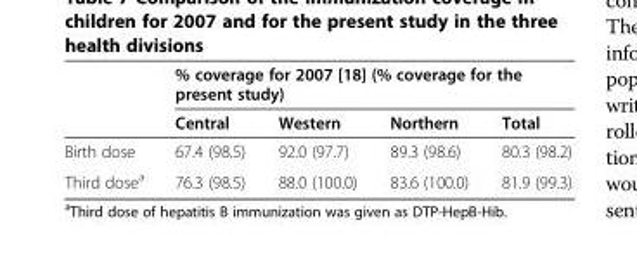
<table><thead><tr><td rowspan="2"></td><td colspan="4">% coverage for 2007 [18] (% coverage for the present study)</td></tr><tr><td>Central</td><td>Western</td><td>Northern</td><td>Total</td></tr></thead><tbody><tr><td>Birth dose</td><td>67.4 (98.5)</td><td>92.0 (97.7)</td><td>89.3 (98.6)</td><td>80.3 (98.2)</td></tr><tr><td>Third dose<sup>a</sup></td><td>76.3 (98.5)</td><td>88.0 (100.0)</td><td>83.6 (100.0)</td><td>81.9 (99.3)</td></tr></tbody></table>